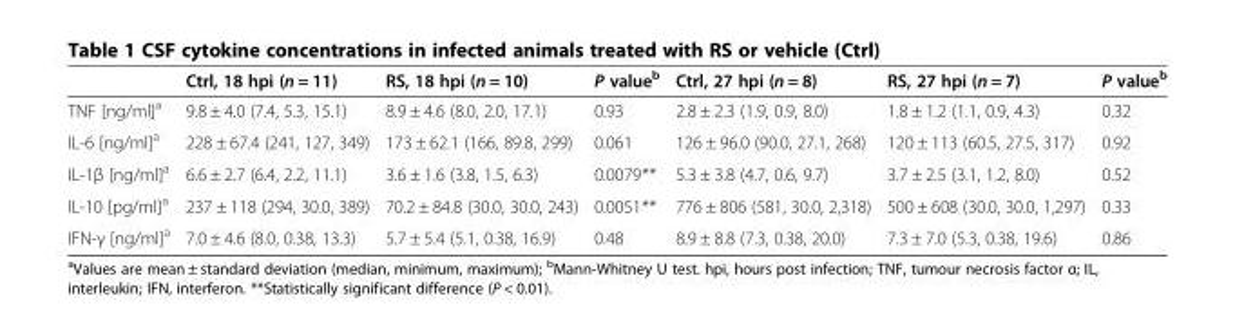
<table><thead><tr><td></td><td>Ctrl, 18 hpi (n = 11)</td><td>RS, 18 hpi (n = 10)</td><td>P value<sup>b</sup></td><td>Ctrl, 27 hpi (n = 8)</td><td>RS, 27 hpi (n = 7)</td><td>P value<sup>b</sup></td></tr></thead><tbody><tr><td>TNF [ng/ml]<sup>a</sup></td><td>9.8 ± 4.0 (7.4, 5.3, 15.1)</td><td>8.9 ± 4.6 (8.0, 2.0, 17.1)</td><td>0.93</td><td>2.8 ± 2.3 (1.9, 0.9, 8.0)</td><td>1.8 ± 1.2 (1.1, 0.9, 4.3)</td><td>0.32</td></tr><tr><td>IL-6 [ng/ml]<sup>a</sup></td><td>228 ± 67.4 (241, 127, 349)</td><td>173 ± 62.1 (166, 89.8, 299)</td><td>0.061</td><td>126 ± 96.0 (90.0, 27.1, 268)</td><td>120 ± 113 (60.5, 27.5, 317)</td><td>0.92</td></tr><tr><td>IL-1β [ng/ml]<sup>a</sup></td><td>6.6 ± 2.7 (6.4, 2.2, 11.1)</td><td>3.6 ± 1.6 (3.8, 1.5, 6.3)</td><td>0.0079**</td><td>5.3 ± 3.8 (4.7, 0.6, 9.7)</td><td>3.7 ± 2.5 (3.1, 1.2, 8.0)</td><td>0.52</td></tr><tr><td>IL-10 [pg/ml]<sup>a</sup></td><td>237 ± 118 (294, 30.0, 389)</td><td>70.2 ± 84.8 (30.0, 30.0, 243)</td><td>0.0051**</td><td>776 ± 806 (581, 30.0, 2,318)</td><td>500 ± 608 (30.0, 30.0, 1,297)</td><td>0.33</td></tr><tr><td>IFN-γ [ng/ml]<sup>a</sup></td><td>7.0 ± 4.6 (8.0, 0.38, 13.3)</td><td>5.7 ± 5.4 (5.1, 0.38, 16.9)</td><td>0.48</td><td>8.9 ± 8.8 (7.3, 0.38, 20.0)</td><td>7.3 ± 7.0 (5.3, 0.38, 19.6)</td><td>0.86</td></tr></tbody></table>